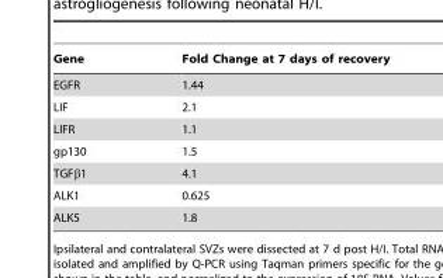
<table><thead><tr><td>Gene</td><td>Fold Change at 7 days of recovery</td></tr></thead><tbody><tr><td>EGFR</td><td>1.44</td></tr><tr><td>LIF</td><td>2.1</td></tr><tr><td>LIFR</td><td>1.1</td></tr><tr><td>gp130</td><td>1.5</td></tr><tr><td>TGFβ1</td><td>4.1</td></tr><tr><td>ALK1</td><td>0.625</td></tr><tr><td>ALK5</td><td>1.8</td></tr></tbody></table>